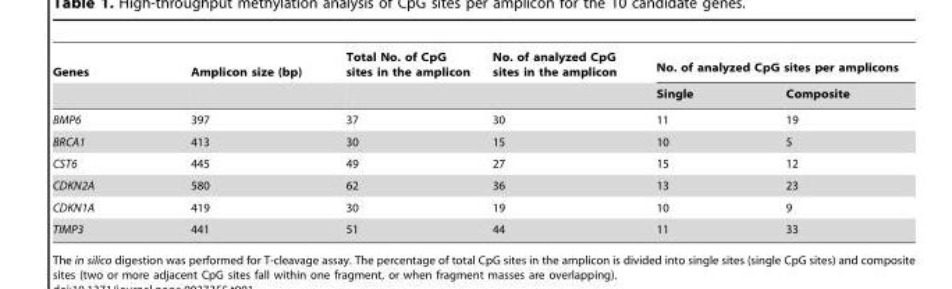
<table><thead><tr><td rowspan="2">Genes</td><td rowspan="2">Amplicon size (bp)</td><td rowspan="2">Total No. of CpG sites in the amplicon</td><td rowspan="2">No. of analyzed CpG sites in the amplicon</td><td colspan="2">No. of analyzed CpG sites per amplicons</td></tr><tr><td>Single</td><td>Composite</td></tr></thead><tbody><tr><td>BMP6</td><td>397</td><td>37</td><td>30</td><td>11</td><td>19</td></tr><tr><td>BRCA1</td><td>413</td><td>30</td><td>15</td><td>10</td><td>5</td></tr><tr><td>CST6</td><td>445</td><td>49</td><td>27</td><td>15</td><td>12</td></tr><tr><td>CDKN2A</td><td>580</td><td>62</td><td>36</td><td>13</td><td>23</td></tr><tr><td>CDKN1A</td><td>419</td><td>30</td><td>19</td><td>10</td><td>9</td></tr><tr><td>TIMP3</td><td>441</td><td>51</td><td>44</td><td>11</td><td>33</td></tr></tbody></table>